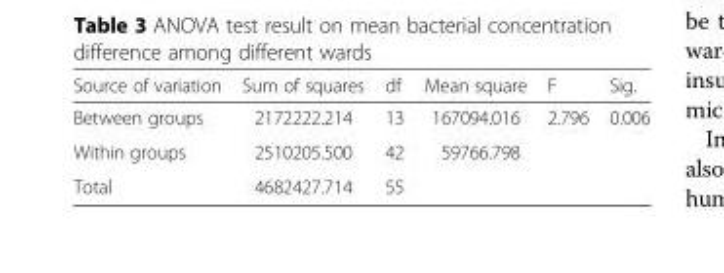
<table><thead><tr><td>Source of variation</td><td>Sum of squares</td><td>df</td><td>Mean square</td><td>F</td><td>Sig.</td></tr></thead><tbody><tr><td>Between groups</td><td>2172222.214</td><td>13</td><td>167094.016</td><td>2.796</td><td>0.006</td></tr><tr><td>Within groups</td><td>2510205.500</td><td>42</td><td>59766.798</td><td></td><td></td></tr><tr><td>Total</td><td>4682427.714</td><td>55</td><td></td><td></td><td></td></tr></tbody></table>